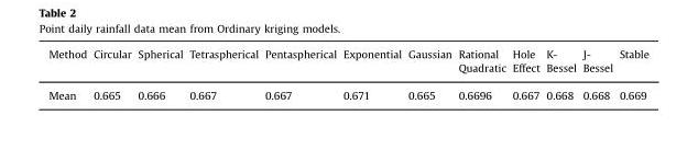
<table><thead><tr><td>Method</td><td>Circular</td><td>Spherical</td><td>Tetraspherical</td><td>Pentaspherical</td><td>Exponential</td><td>Gaussian</td><td>Rational Quadratic</td><td>Hole Effect</td><td>K- Bessel</td><td>J- Bessel</td><td>Stable</td></tr></thead><tbody><tr><td>Mean</td><td>0.665</td><td>0.666</td><td>0.667</td><td>0.667</td><td>0.671</td><td>0.665</td><td>0.6696</td><td>0.667</td><td>0.668</td><td>0.668</td><td>0.669</td></tr></tbody></table>